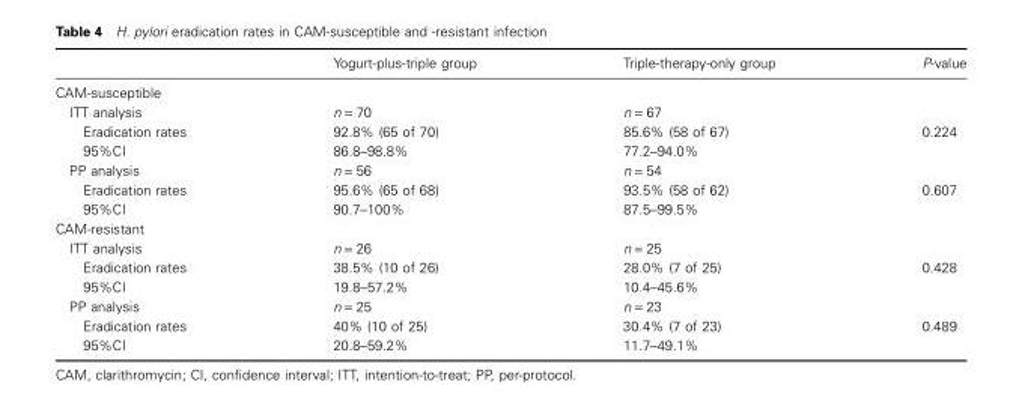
<table><thead><tr><td></td><td>Yogurt-plus-triple group</td><td>Triple-therapy-only group</td><td>P-value</td></tr></thead><tbody><tr><td colspan="4">CAM-susceptible</td></tr><tr><td>ITT analysis</td><td>n = 70</td><td>n = 67</td><td></td></tr><tr><td>Eradication rates</td><td>92.8% (65 of 70)</td><td>85.6% (58 of 67)</td><td>0.224</td></tr><tr><td>95%CI</td><td>86.8–98.8%</td><td>77.2–94.0%</td><td></td></tr><tr><td>PP analysis</td><td>n = 56</td><td>n = 54</td><td></td></tr><tr><td>Eradication rates</td><td>95.6% (65 of 68)</td><td>93.5% (58 of 62)</td><td>0.607</td></tr><tr><td>95%CI</td><td>90.7–100%</td><td>87.5–99.5%</td><td></td></tr><tr><td colspan="4">CAM-resistant</td></tr><tr><td>ITT analysis</td><td>n = 26</td><td>n = 25</td><td></td></tr><tr><td>Eradication rates</td><td>38.5% (10 of 26)</td><td>28.0% (7 of 25)</td><td>0.428</td></tr><tr><td>95%CI</td><td>19.8–57.2%</td><td>10.4–45.6%</td><td></td></tr><tr><td>PP analysis</td><td>n = 25</td><td>n = 23</td><td></td></tr><tr><td>Eradication rates</td><td>40% (10 of 25)</td><td>30.4% (7 of 23)</td><td>0.489</td></tr><tr><td>95%CI</td><td>20.8–59.2%</td><td>11.7–49.1%</td><td></td></tr></tbody></table>